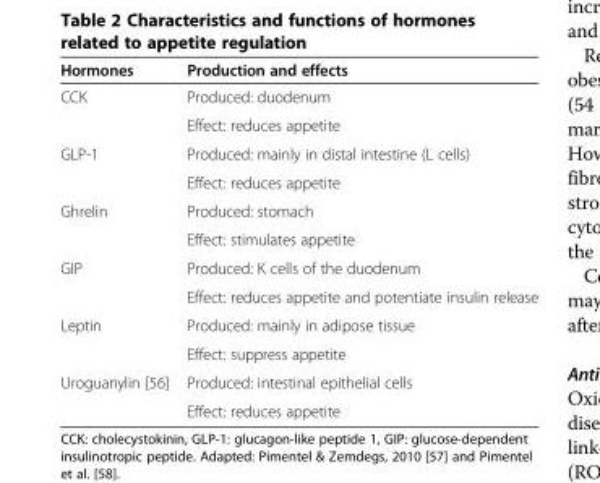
<table><thead><tr><td>Hormones</td><td>Production and effects</td></tr></thead><tbody><tr><td rowspan="2">CCK</td><td>Produced: duodenum</td></tr><tr><td>Effect: reduces appetite</td></tr><tr><td rowspan="2">GLP-1</td><td>Produced: mainly in distal intestine (L cells)</td></tr><tr><td>Effect: reduces appetite</td></tr><tr><td rowspan="2">Ghrelin</td><td>Produced: stomach</td></tr><tr><td>Effect: stimulates appetite</td></tr><tr><td rowspan="2">GIP</td><td>Produced: K cells of the duodenum</td></tr><tr><td>Effect: reduces appetite and potentiate insulin release</td></tr><tr><td rowspan="2">Leptin</td><td>Produced: mainly in adipose tissue</td></tr><tr><td>Effect: suppress appetite</td></tr><tr><td rowspan="2">Uroguanylin [56]</td><td>Produced: intestinal epithelial cells</td></tr><tr><td>Effect: reduces appetite</td></tr></tbody></table>